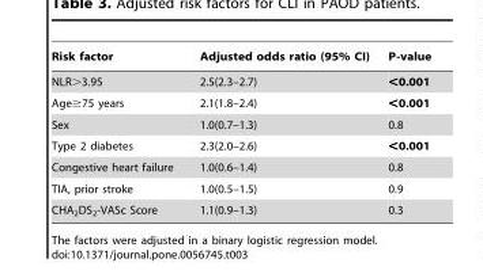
<table><thead><tr><td>Risk factor</td><td>Adjusted odds ratio (95% CI)</td><td>P-value</td></tr></thead><tbody><tr><td>NLR&gt;3.95</td><td>2.5(2.3–2.7)</td><td>&lt;0.001</td></tr><tr><td>Age≥75 years</td><td>2.1(1.8–2.4)</td><td>&lt;0.001</td></tr><tr><td>Sex</td><td>1.0(0.7–1.3)</td><td>0.8</td></tr><tr><td>Type 2 diabetes</td><td>2.3(2.0–2.6)</td><td>&lt;0.001</td></tr><tr><td>Congestive heart failure</td><td>1.0(0.6–1.4)</td><td>0.8</td></tr><tr><td>TIA, prior stroke</td><td>1.0(0.5–1.5)</td><td>0.9</td></tr><tr><td>CHA<sub>2</sub>DS<sub>2</sub>-VASc Score</td><td>1.1(0.9–1.3)</td><td>0.3</td></tr></tbody></table>